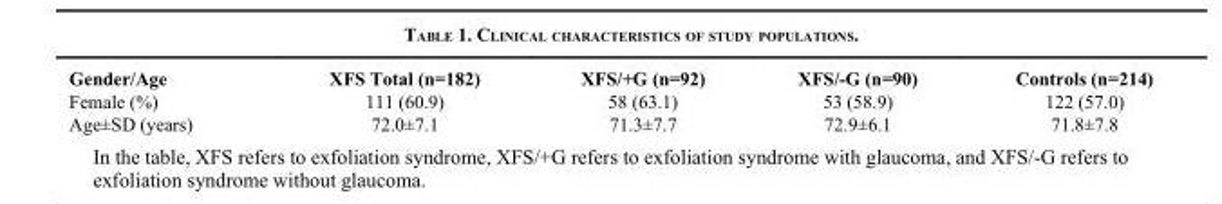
<table><thead><tr><td>Gender/Age</td><td>XFS Total (n=182)</td><td>XFS/+G (n=92)</td><td>XFS/-G (n=90)</td><td>Controls (n=214)</td></tr></thead><tbody><tr><td>Female (%)</td><td>111 (60.9)</td><td>58 (63.1)</td><td>53 (58.9)</td><td>122 (57.0)</td></tr><tr><td>Age±SD (years)</td><td>72.0±7.1</td><td>71.3±7.7</td><td>72.9±6.1</td><td>71.8±7.8</td></tr></tbody></table>